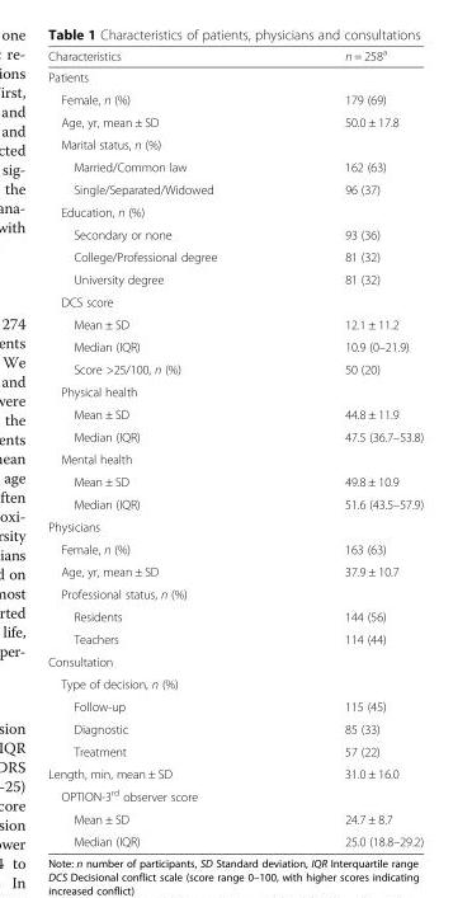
<table><thead><tr><td>Characteristics</td><td>n = 258<sup>a</sup></td></tr></thead><tbody><tr><td colspan="2">Patients</td></tr><tr><td>Female, n (%)</td><td>179 (69)</td></tr><tr><td>Age, yr, mean ± SD</td><td>50.0 ± 17.8</td></tr><tr><td colspan="2">Marital status, n (%)</td></tr><tr><td>Married/Common law</td><td>162 (63)</td></tr><tr><td>Single/Separated/Widowed</td><td>96 (37)</td></tr><tr><td colspan="2">Education, n (%)</td></tr><tr><td>Secondary or none</td><td>93 (36)</td></tr><tr><td>College/Professional degree</td><td>81 (32)</td></tr><tr><td>University degree</td><td>81 (32)</td></tr><tr><td colspan="2">DCS score</td></tr><tr><td>Mean ± SD</td><td>12.1 ± 11.2</td></tr><tr><td>Median (IQR)</td><td>10.9 (0–21.9)</td></tr><tr><td>Score &gt;25/100, n (%)</td><td>50 (20)</td></tr><tr><td colspan="2">Physical health</td></tr><tr><td>Mean ± SD</td><td>44.8 ± 11.9</td></tr><tr><td>Median (IQR)</td><td>47.5 (36.7–53.8)</td></tr><tr><td colspan="2">Mental health</td></tr><tr><td>Mean ± SD</td><td>49.8 ± 10.9</td></tr><tr><td>Median (IQR)</td><td>51.6 (43.5–57.9)</td></tr><tr><td colspan="2">Physicians</td></tr><tr><td>Female, n (%)</td><td>163 (63)</td></tr><tr><td>Age, yr, mean ± SD</td><td>37.9 ± 10.7</td></tr><tr><td colspan="2">Professional status, n (%)</td></tr><tr><td>Residents</td><td>144 (56)</td></tr><tr><td>Teachers</td><td>114 (44)</td></tr><tr><td colspan="2">Consultation</td></tr><tr><td colspan="2">Type of decision, n (%)</td></tr><tr><td>Follow-up</td><td>115 (45)</td></tr><tr><td>Diagnostic</td><td>85 (33)</td></tr><tr><td>Treatment</td><td>57 (22)</td></tr><tr><td>Length, min, mean ± SD</td><td>31.0 ± 16.0</td></tr><tr><td colspan="2">OPTION-3<sup>rd</sup> observer score</td></tr><tr><td>Mean ± SD</td><td>24.7 ± 8.7</td></tr><tr><td>Median (IQR)</td><td>25.0 (18.8–29.2)</td></tr></tbody></table>